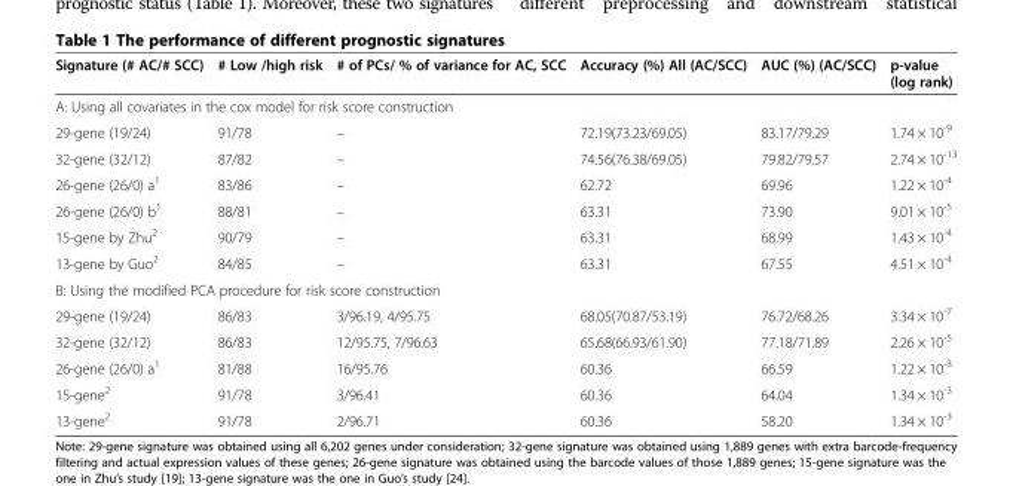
<table><thead><tr><td>Signature (# AC/# SCC)</td><td># Low /high risk</td><td># of PCs/ % of variance for AC, SCC</td><td>Accuracy (%) All (AC/SCC)</td><td>AUC (%) (AC/SCC)</td><td>p-value (log rank)</td></tr></thead><tbody><tr><td colspan="6">A: Using all covariates in the cox model for risk score construction</td></tr><tr><td>29-gene (19/24)</td><td>91/78</td><td>–</td><td>72.19(73.23/69.05)</td><td>83.17/79.29</td><td>1.74 × 10<sup>-9</sup></td></tr><tr><td>32-gene (32/12)</td><td>87/82</td><td>–</td><td>74.56(76.38/69.05)</td><td>79.82/79.57</td><td>2.74 × 10<sup>-13</sup></td></tr><tr><td>26-gene (26/0) a<sup>1</sup></td><td>83/86</td><td>–</td><td>62.72</td><td>69.96</td><td>1.22 × 10<sup>-4</sup></td></tr><tr><td>26-gene (26/0) b<sup>1</sup></td><td>88/81</td><td>–</td><td>63.31</td><td>73.90</td><td>9.01 × 10<sup>-5</sup></td></tr><tr><td>15-gene by Zhu<sup>2</sup></td><td>90/79</td><td>–</td><td>63.31</td><td>68.99</td><td>1.43 × 10<sup>-4</sup></td></tr><tr><td>13-gene by Guo<sup>2</sup></td><td>84/85</td><td>–</td><td>63.31</td><td>67.55</td><td>4.51 × 10<sup>-4</sup></td></tr><tr><td colspan="6">B: Using the modified PCA procedure for risk score construction</td></tr><tr><td>29-gene (19/24)</td><td>86/83</td><td>3/96.19, 4/95.75</td><td>68.05(70.87/53.19)</td><td>76.72/68.26</td><td>3.34 × 10<sup>-7</sup></td></tr><tr><td>32-gene (32/12)</td><td>86/83</td><td>12/95.75, 7/96.63</td><td>65.68(66.93/61.90)</td><td>77.18/71.89</td><td>2.26 × 10<sup>-5</sup></td></tr><tr><td>26-gene (26/0) a<sup>1</sup></td><td>81/88</td><td>16/95.76</td><td>60.36</td><td>66.59</td><td>1.22 × 10<sup>-3</sup></td></tr><tr><td>15-gene<sup>2</sup></td><td>91/78</td><td>3/96.41</td><td>60.36</td><td>64.04</td><td>1.34 × 10<sup>-3</sup></td></tr><tr><td>13-gene<sup>2</sup></td><td>91/78</td><td>2/96.71</td><td>60.36</td><td>58.20</td><td>1.34 × 10<sup>-3</sup></td></tr></tbody></table>